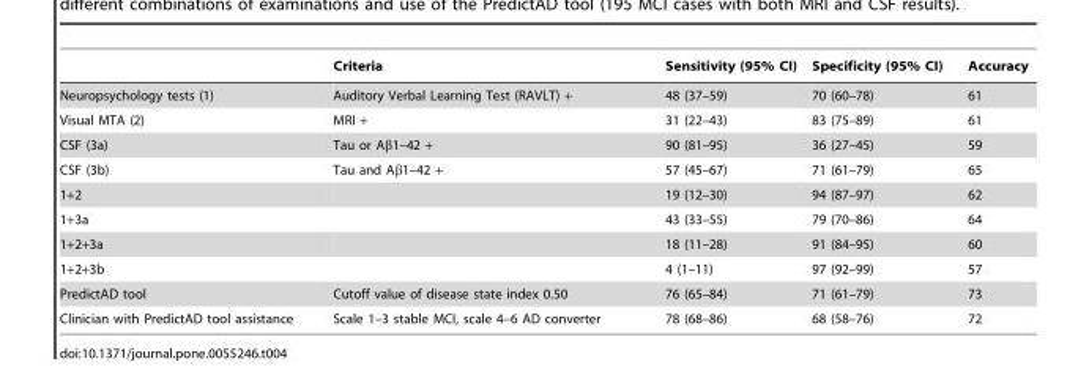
<table><thead><tr><td></td><td>Criteria</td><td>Sensitivity (95% CI)</td><td>Specificity (95% CI)</td><td>Accuracy</td></tr></thead><tbody><tr><td>Neuropsychology tests (1)</td><td>Auditory Verbal Learning Test (RAVLT) +</td><td>48 (37–59)</td><td>70 (60–78)</td><td>61</td></tr><tr><td>Visual MTA (2)</td><td>MRI +</td><td>31 (22–43)</td><td>83 (75–89)</td><td>61</td></tr><tr><td>CSF (3a)</td><td>Tau or Aβ1–42 +</td><td>90 (81–95)</td><td>36 (27–45)</td><td>59</td></tr><tr><td>CSF (3b)</td><td>Tau and Aβ1–42 +</td><td>57 (45–67)</td><td>71 (61–79)</td><td>65</td></tr><tr><td>1+2</td><td></td><td>19 (12–30)</td><td>94 (87–97)</td><td>62</td></tr><tr><td>1+3a</td><td></td><td>43 (33–55)</td><td>79 (70–86)</td><td>64</td></tr><tr><td>1+2+3a</td><td></td><td>18 (11–28)</td><td>91 (84–95)</td><td>60</td></tr><tr><td>1+2+3b</td><td></td><td>4 (1–11)</td><td>97 (92–99)</td><td>57</td></tr><tr><td>PredictAD tool</td><td>Cutoff value of disease state index 0.50</td><td>76 (65–84)</td><td>71 (61–79)</td><td>73</td></tr><tr><td>Clinician with PredictAD tool assistance</td><td>Scale 1–3 stable MCI, scale 4–6 AD converter</td><td>78 (68–86)</td><td>68 (58–76)</td><td>72</td></tr></tbody></table>